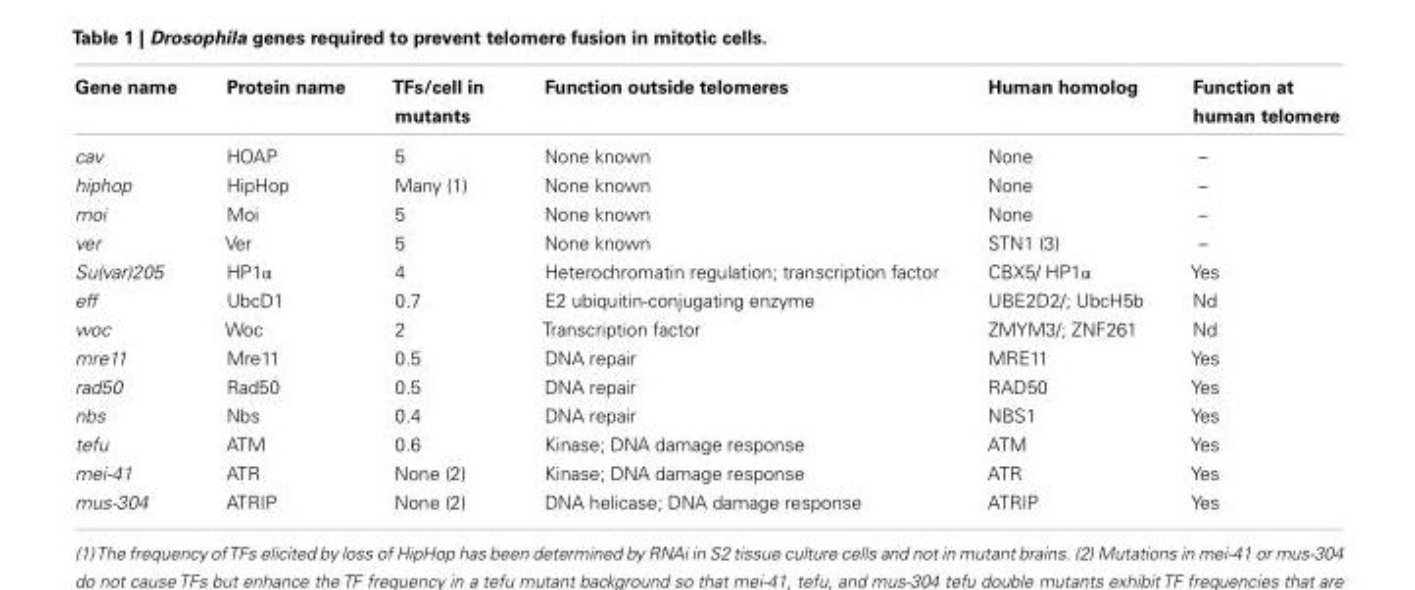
<table><thead><tr><td>Gene name</td><td>Protein name</td><td>TFs/cell in mutants</td><td>Function outside telomeres</td><td>Human homolog</td><td>Function at human telomere</td></tr></thead><tbody><tr><td>cav</td><td>HOAP</td><td>5</td><td>None known</td><td>None</td><td>–</td></tr><tr><td>hiphop</td><td>HipHop</td><td>Many (1)</td><td>None known</td><td>None</td><td>–</td></tr><tr><td>moi</td><td>Moi</td><td>5</td><td>None known</td><td>None</td><td>–</td></tr><tr><td>ver</td><td>Ver</td><td>5</td><td>None known</td><td>STN1 (3)</td><td>–</td></tr><tr><td>Su(var)205</td><td>HP1α</td><td>4</td><td>Heterochromatin regulation; transcription factor</td><td>CBX5/ HP1α</td><td>Yes</td></tr><tr><td>eff</td><td>UbcD1</td><td>0.7</td><td>E2 ubiquitin-conjugating enzyme</td><td>UBE2D2/; UbcH5b</td><td>Nd</td></tr><tr><td>woc</td><td>Woc</td><td>2</td><td>Transcription factor</td><td>ZMYM3/; ZNF261</td><td>Nd</td></tr><tr><td>mre11</td><td>Mre11</td><td>0.5</td><td>DNA repair</td><td>MRE11</td><td>Yes</td></tr><tr><td>rad50</td><td>Rad50</td><td>0.5</td><td>DNA repair</td><td>RAD50</td><td>Yes</td></tr><tr><td>nbs</td><td>Nbs</td><td>0.4</td><td>DNA repair</td><td>NBS1</td><td>Yes</td></tr><tr><td>tefu</td><td>ATM</td><td>0.6</td><td>Kinase; DNA damage response</td><td>ATM</td><td>Yes</td></tr><tr><td>mei-41</td><td>ATR</td><td>None (2)</td><td>Kinase; DNA damage response</td><td>ATR</td><td>Yes</td></tr><tr><td>mus-304</td><td>ATRIP</td><td>None (2)</td><td>DNA helicase; DNA damage response</td><td>ATRIP</td><td>Yes</td></tr></tbody></table>